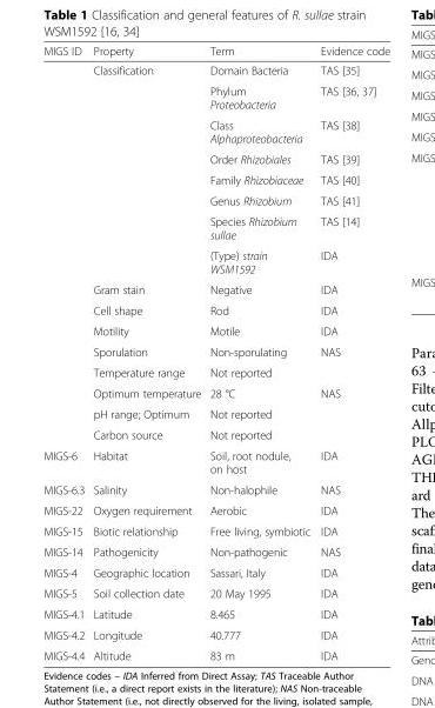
<table><thead><tr><td>MIGS ID</td><td>Property</td><td>Term</td><td>Evidence code</td></tr></thead><tbody><tr><td></td><td>Classification</td><td>Domain Bacteria</td><td>TAS [35]</td></tr><tr><td></td><td></td><td>Phylum Proteobacteria</td><td>TAS [36, 37]</td></tr><tr><td></td><td></td><td>Class Alphaproteobacteria</td><td>TAS [38]</td></tr><tr><td></td><td></td><td>Order Rhizobiales</td><td>TAS [39]</td></tr><tr><td></td><td></td><td>Family Rhizobiaceae</td><td>TAS [40]</td></tr><tr><td></td><td></td><td>Genus Rhizobium</td><td>TAS [41]</td></tr><tr><td></td><td></td><td>Species Rhizobium sullae</td><td>TAS [14]</td></tr><tr><td></td><td></td><td>(Type) strain WSM1592</td><td>IDA</td></tr><tr><td></td><td>Gram stain</td><td>Negative</td><td>IDA</td></tr><tr><td></td><td>Cell shape</td><td>Rod</td><td>IDA</td></tr><tr><td></td><td>Motility</td><td>Motile</td><td>IDA</td></tr><tr><td></td><td>Sporulation</td><td>Non-sporulating</td><td>NAS</td></tr><tr><td></td><td>Temperature range</td><td>Not reported</td><td></td></tr><tr><td></td><td>Optimum temperature</td><td>28 °C</td><td>NAS</td></tr><tr><td></td><td>pH range; Optimum</td><td>Not reported</td><td></td></tr><tr><td></td><td>Carbon source</td><td>Not reported</td><td></td></tr><tr><td>MIGS-6</td><td>Habitat</td><td>Soil, root nodule, on host</td><td>IDA</td></tr><tr><td>MIGS-6.3</td><td>Salinity</td><td>Non-halophile</td><td>NAS</td></tr><tr><td>MIGS-22</td><td>Oxygen requirement</td><td>Aerobic</td><td>IDA</td></tr><tr><td>MIGS-15</td><td>Biotic relationship</td><td>Free living, symbiotic</td><td>IDA</td></tr><tr><td>MIGS-14</td><td>Pathogenicity</td><td>Non-pathogenic</td><td>NAS</td></tr><tr><td>MIGS-4</td><td>Geographic location</td><td>Sassari, Italy</td><td>IDA</td></tr><tr><td>MIGS-5</td><td>Soil collection date</td><td>20 May 1995</td><td>IDA</td></tr><tr><td>MIGS-4.1</td><td>Latitude</td><td>8.465</td><td>IDA</td></tr><tr><td>MIGS-4.2</td><td>Longitude</td><td>40.777</td><td>IDA</td></tr><tr><td>MIGS-4.4</td><td>Altitude</td><td>83 m</td><td>IDA</td></tr></tbody></table>